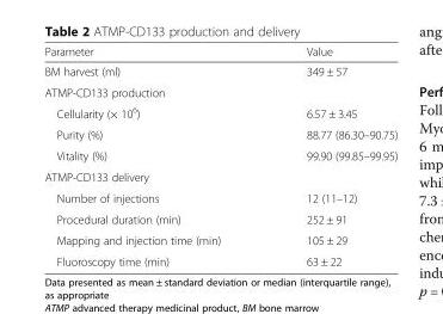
<table><thead><tr><td>Parameter</td><td>Value</td></tr></thead><tbody><tr><td>BM harvest (ml)</td><td>349 ± 57</td></tr><tr><td colspan="2">ATMP-CD133 production</td></tr><tr><td>Cellularity (× 10<sup>6</sup>)</td><td>6.57 ± 3.45</td></tr><tr><td>Purity (%)</td><td>88.77 (86.30–90.75)</td></tr><tr><td>Vitality (%)</td><td>99.90 (99.85–99.95)</td></tr><tr><td colspan="2">ATMP-CD133 delivery</td></tr><tr><td>Number of injections</td><td>12 (11–12)</td></tr><tr><td>Procedural duration (min)</td><td>252 ± 91</td></tr><tr><td>Mapping and injection time (min)</td><td>105 ± 29</td></tr><tr><td>Fluoroscopy time (min)</td><td>63 ± 22</td></tr></tbody></table>